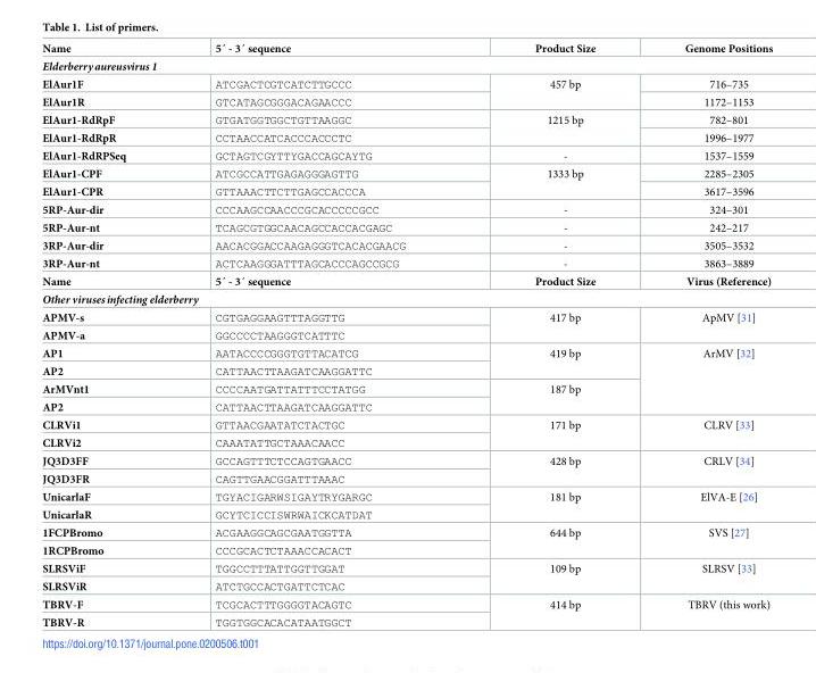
<table><tbody><tr><td>Name</td><td>5´ - 3´ sequence</td><td>Product Size</td><td>Genome Positions</td></tr><tr><td colspan="4">Elderberryaureusvirus 1</td></tr><tr><td>ElAur1F</td><td>ATCGACTCGTCATCTTGCCC</td><td rowspan="2">457 bp</td><td>716–735</td></tr><tr><td>ElAur1R</td><td>GTCATAGCGGGACAGAACCC</td><td>1172–1153</td></tr><tr><td>ElAur1-RdRpF</td><td>GTGATGGTGGCTGTTAAGGC</td><td rowspan="2">1215 bp</td><td>782–801</td></tr><tr><td>ElAur1-RdRpR</td><td>CCTAACCATCACCCACCCTC</td><td>1996–1977</td></tr><tr><td>ElAur1-RdRPSeq</td><td>GCTAGTCGYTTYGACCAGCAYTG</td><td>-</td><td>1537–1559</td></tr><tr><td>ElAur1-CPF</td><td>ATCGCCATTGAGAGGGAGTTG</td><td rowspan="2">1333 bp</td><td>2285–2305</td></tr><tr><td>ElAur1-CPR</td><td>GTTAAACTTCTTGAGCCACCCA</td><td>3617–3596</td></tr><tr><td>5RP-Aur-dir</td><td>CCCAAGCCAACCCGCACCCCCGCC</td><td>-</td><td>324–301</td></tr><tr><td>5RP-Aur-nt</td><td>TCAGCGTGGCAACAGCCACCACGAGC</td><td>-</td><td>242–217</td></tr><tr><td>3RP-Aur-dir</td><td>AACACGGACCAAGAGGGTCACACGAACG</td><td>-</td><td>3505–3532</td></tr><tr><td>3RP-Aur-nt</td><td>ACTCAAGGGATTTAGCACCCAGCCGCG</td><td>-</td><td>3863–3889</td></tr><tr><td>Name</td><td>5´ - 3´ sequence</td><td>Product Size</td><td>Virus (Reference)</td></tr><tr><td colspan="4">Other virusesinfecting elderberry</td></tr><tr><td>APMV-s</td><td>CGTGAGGAAGTTTAGGTTG</td><td rowspan="2">417 bp</td><td rowspan="2">ApMV [31]</td></tr><tr><td>APMV-a</td><td>GGCCCCTAAGGGTCATTTC</td></tr><tr><td>AP1</td><td>AATACCCCGGGTGTTACATCG</td><td rowspan="2">419 bp</td><td rowspan="4">ArMV [32]</td></tr><tr><td>AP2</td><td>CATTAACTTAAGATCAAGGATTC</td></tr><tr><td>ArMVnt1</td><td>CCCCAATGATTATTTCCTATGG</td><td rowspan="2">187 bp</td></tr><tr><td>AP2</td><td>CATTAACTTAAGATCAAGGATTC</td></tr><tr><td>CLRVi1</td><td>GTTAACGAATATCTACTGC</td><td rowspan="2">171 bp</td><td rowspan="2">CLRV [33]</td></tr><tr><td>CLRVi2</td><td>CAAATATTGCTAAACAACC</td></tr><tr><td>JQ3D3FF</td><td>GCCAGTTTCTCCAGTGAACC</td><td rowspan="2">428 bp</td><td rowspan="2">CRLV [34]</td></tr><tr><td>JQ3D3FR</td><td>CAGTTGAACGGATTTAAAC</td></tr><tr><td>UnicarlaF</td><td>TGYACIGARWSIGAYTRYGARGC</td><td rowspan="2">181 bp</td><td rowspan="2">ElVA-E [26]</td></tr><tr><td>UnicarlaR</td><td>GCYTCICCISWRWAICKCATDAT</td></tr><tr><td>1FCPBromo</td><td>ACGAAGGCAGCGAATGGTTA</td><td rowspan="2">644 bp</td><td rowspan="2">SVS [27]</td></tr><tr><td>1RCPBromo</td><td>CCCGCACTCTAAACCACACT</td></tr><tr><td>SLRSViF</td><td>TGGCCTTTATTGGTTGGAT</td><td rowspan="2">109 bp</td><td rowspan="2">SLRSV [33]</td></tr><tr><td>SLRSViR</td><td>ATCTGCCACTGATTCTCAC</td></tr><tr><td>TBRV-F</td><td>TCGCACTTTGGGGTACAGTC</td><td rowspan="2">414 bp</td><td rowspan="2">TBRV (this work)</td></tr><tr><td>TBRV-R</td><td>TGGTGGCACACATAATGGCT</td></tr></tbody></table>